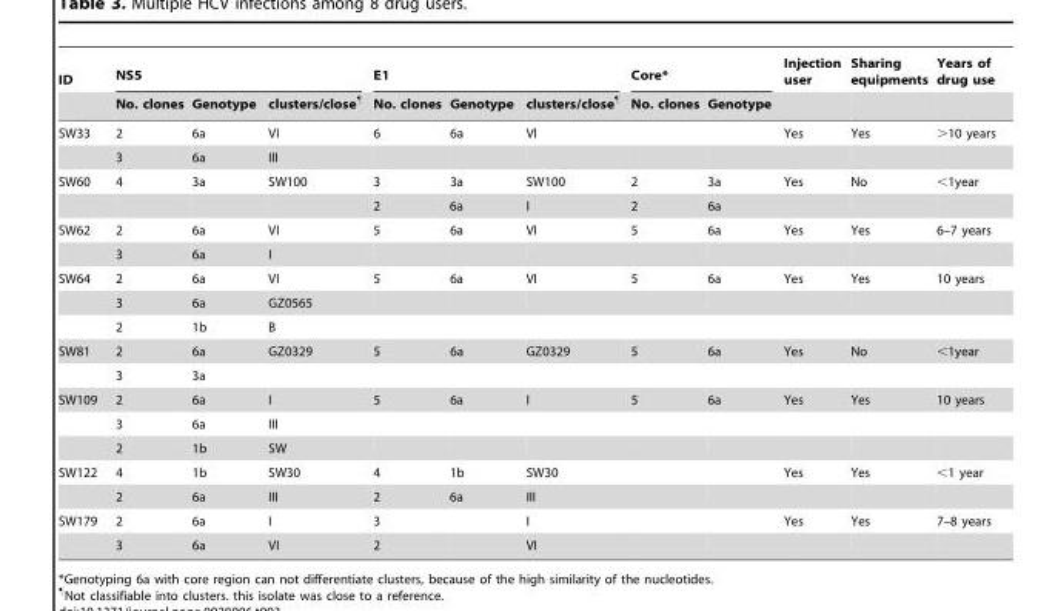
<table><thead><tr><td rowspan="2">ID</td><td colspan="3">NS5</td><td colspan="3">E1</td><td colspan="2">Core*</td><td rowspan="2">Injection user</td><td rowspan="2">Sharing equipments</td><td rowspan="2">Years of drug use</td></tr><tr><td>No. clones</td><td>Genotype</td><td>clusters/close¶</td><td>No. clones</td><td>Genotype</td><td>clusters/close¶</td><td>No. clones</td><td>Genotype</td></tr></thead><tbody><tr><td rowspan="2">SW33</td><td>2</td><td>6a</td><td>VI</td><td>6</td><td>6a</td><td>VI</td><td></td><td></td><td>Yes</td><td>Yes</td><td>&gt;10 years</td></tr><tr><td>3</td><td>6a</td><td>III</td><td></td><td></td><td></td><td></td><td></td><td></td><td></td><td></td></tr><tr><td rowspan="2">SW60</td><td>4</td><td>3a</td><td>SW100</td><td>3</td><td>3a</td><td>SW100</td><td>2</td><td>3a</td><td>Yes</td><td>No</td><td>&lt;1year</td></tr><tr><td></td><td></td><td></td><td>2</td><td>6a</td><td>I</td><td>2</td><td>6a</td><td></td><td></td><td></td></tr><tr><td rowspan="2">SW62</td><td>2</td><td>6a</td><td>VI</td><td>5</td><td>6a</td><td>VI</td><td>5</td><td>6a</td><td>Yes</td><td>Yes</td><td>6–7 years</td></tr><tr><td>3</td><td>6a</td><td>I</td><td></td><td></td><td></td><td></td><td></td><td></td><td></td><td></td></tr><tr><td rowspan="3">SW64</td><td>2</td><td>6a</td><td>VI</td><td>5</td><td>6a</td><td>VI</td><td>5</td><td>6a</td><td>Yes</td><td>Yes</td><td>10 years</td></tr><tr><td>3</td><td>6a</td><td>GZ0565</td><td></td><td></td><td></td><td></td><td></td><td></td><td></td><td></td></tr><tr><td>2</td><td>1b</td><td>B</td><td></td><td></td><td></td><td></td><td></td><td></td><td></td><td></td></tr><tr><td rowspan="2">SW81</td><td>2</td><td>6a</td><td>GZ0329</td><td>5</td><td>6a</td><td>GZ0329</td><td>5</td><td>6a</td><td>Yes</td><td>No</td><td>&lt;1year</td></tr><tr><td>3</td><td>3a</td><td></td><td></td><td></td><td></td><td></td><td></td><td></td><td></td><td></td></tr><tr><td rowspan="3">SW109</td><td>2</td><td>6a</td><td>I</td><td>5</td><td>6a</td><td>I</td><td>5</td><td>6a</td><td>Yes</td><td>Yes</td><td>10 years</td></tr><tr><td>3</td><td>6a</td><td>III</td><td></td><td></td><td></td><td></td><td></td><td></td><td></td><td></td></tr><tr><td>2</td><td>1b</td><td>SW</td><td></td><td></td><td></td><td></td><td></td><td></td><td></td><td></td></tr><tr><td rowspan="2">SW122</td><td>4</td><td>1b</td><td>SW30</td><td>4</td><td>1b</td><td>SW30</td><td></td><td></td><td>Yes</td><td>Yes</td><td>&lt;1 year</td></tr><tr><td>2</td><td>6a</td><td>III</td><td>2</td><td>6a</td><td>III</td><td></td><td></td><td></td><td></td><td></td></tr><tr><td rowspan="2">SW179</td><td>2</td><td>6a</td><td>I</td><td>3</td><td></td><td>I</td><td></td><td></td><td>Yes</td><td>Yes</td><td>7–8 years</td></tr><tr><td>3</td><td>6a</td><td>VI</td><td>2</td><td></td><td>VI</td><td></td><td></td><td></td><td></td><td></td></tr></tbody></table>